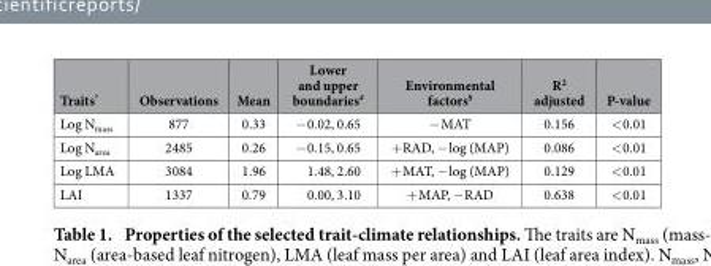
<table><thead><tr><td>Traits*</td><td>Observations</td><td>Mean</td><td>Lower and upper boundaries<sup>#</sup></td><td>Environmental factors<sup>$</sup></td><td>R<sup>2</sup> adjusted</td><td>P-value</td></tr></thead><tbody><tr><td>Log N<sub>mass</sub></td><td>877</td><td>0.33</td><td>− 0.02, 0.65</td><td>− MAT</td><td>0.156</td><td>&lt; 0.01</td></tr><tr><td>Log N<sub>area</sub></td><td>2485</td><td>0.26</td><td>− 0.15, 0.65</td><td>+ RAD, − log (MAP)</td><td>0.086</td><td>&lt; 0.01</td></tr><tr><td>Log LMA</td><td>3084</td><td>1.96</td><td>1.48, 2.60</td><td>+ MAT, − log (MAP)</td><td>0.129</td><td>&lt; 0.01</td></tr><tr><td>LAI</td><td>1337</td><td>0.79</td><td>0.00, 3.10</td><td>+ MAP, − RAD</td><td>0.638</td><td>&lt; 0.01</td></tr></tbody></table>